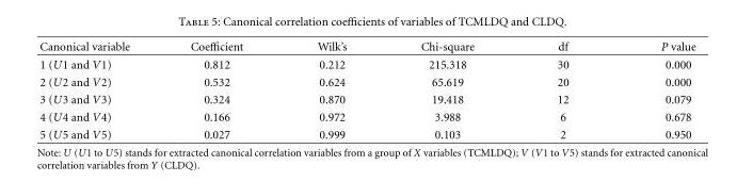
<table><thead><tr><td>Canonical variable</td><td>Coefficient</td><td>Wilk’s</td><td>Chi-square</td><td>df</td><td>P value</td></tr></thead><tbody><tr><td>1 (U1 and V1)</td><td>0.812</td><td>0.212</td><td>215.318</td><td>30</td><td>0.000</td></tr><tr><td>2 (U2 and V2)</td><td>0.532</td><td>0.624</td><td>65.619</td><td>20</td><td>0.000</td></tr><tr><td>3 (U3 and V3)</td><td>0.324</td><td>0.870</td><td>19.418</td><td>12</td><td>0.079</td></tr><tr><td>4 (U4 and V4)</td><td>0.166</td><td>0.972</td><td>3.988</td><td>6</td><td>0.678</td></tr><tr><td>5 (U5 and V5)</td><td>0.027</td><td>0.999</td><td>0.103</td><td>2</td><td>0.950</td></tr></tbody></table>